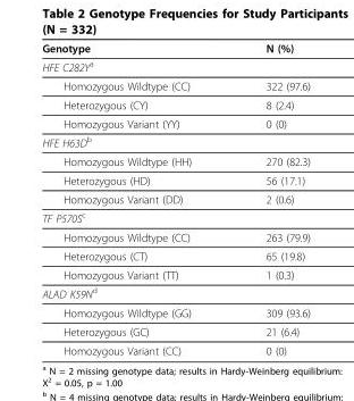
<table><thead><tr><td>Genotype</td><td>N (%)</td></tr></thead><tbody><tr><td colspan="2">HFE C282Y<sup>a</sup></td></tr><tr><td>Homozygous Wildtype (CC)</td><td>322 (97.6)</td></tr><tr><td>Heterozygous (CY)</td><td>8 (2.4)</td></tr><tr><td>Homozygous Variant (YY)</td><td>0 (0)</td></tr><tr><td colspan="2">HFE H63D<sup>b</sup></td></tr><tr><td>Homozygous Wildtype (HH)</td><td>270 (82.3)</td></tr><tr><td>Heterozygous (HD)</td><td>56 (17.1)</td></tr><tr><td>Homozygous Variant (DD)</td><td>2 (0.6)</td></tr><tr><td colspan="2">TF P570S<sup>c</sup></td></tr><tr><td>Homozygous Wildtype (CC)</td><td>263 (79.9)</td></tr><tr><td>Heterozygous (CT)</td><td>65 (19.8)</td></tr><tr><td>Homozygous Variant (TT)</td><td>1 (0.3)</td></tr><tr><td colspan="2">ALAD K59N<sup>d</sup></td></tr><tr><td>Homozygous Wildtype (GG)</td><td>309 (93.6)</td></tr><tr><td>Heterozygous (GC)</td><td>21 (6.4)</td></tr><tr><td>Homozygous Variant (CC)</td><td>0 (0)</td></tr></tbody></table>